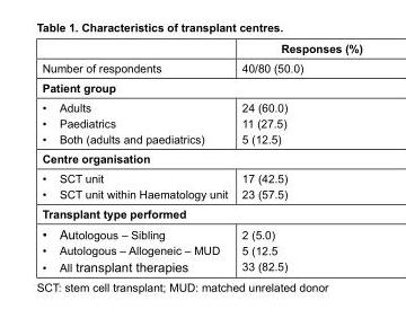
<table><thead><tr><td></td><td>Responses (%)</td></tr></thead><tbody><tr><td>Number of respondents</td><td>40/80 (50.0)</td></tr><tr><td colspan="2">Patient group</td></tr><tr><td>• Adults • Paediatrics • Both (adults and paediatrics)</td><td>24 (60.0) 11 (27.5) 5 (12.5)</td></tr><tr><td colspan="2">Centre organisation</td></tr><tr><td>• SCT unit • SCT unit within Haematology unit</td><td>17 (42.5) 23 (57.5)</td></tr><tr><td colspan="2">Transplant type performed</td></tr><tr><td>• Autologous – Sibling • Autologous – Allogeneic – MUD • All transplant therapies</td><td>2 (5.0) 5 (12.5 33 (82.5)</td></tr></tbody></table>